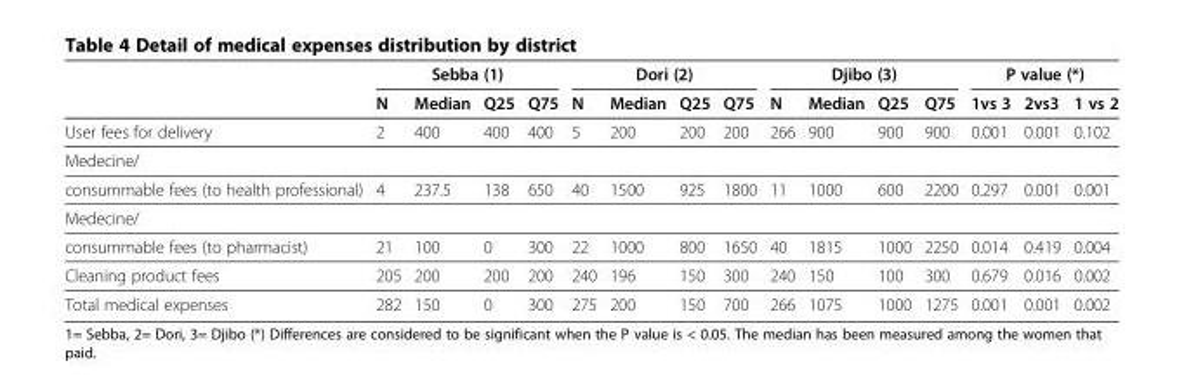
<table><thead><tr><td rowspan="2"></td><td colspan="4">Sebba (1)</td><td colspan="4">Dori (2)</td><td colspan="4">Djibo (3)</td><td colspan="3">P value (*)</td></tr><tr><td>N</td><td>Median</td><td>Q25</td><td>Q75</td><td>N</td><td>Median</td><td>Q25</td><td>Q75</td><td>N</td><td>Median</td><td>Q25</td><td>Q75</td><td>1vs 3</td><td>2vs3</td><td>1 vs 2</td></tr></thead><tbody><tr><td>User fees for delivery</td><td>2</td><td>400</td><td>400</td><td>400</td><td>5</td><td>200</td><td>200</td><td>200</td><td>266</td><td>900</td><td>900</td><td>900</td><td>0.001</td><td>0.001</td><td>0.102</td></tr><tr><td colspan="16">Medecine/</td></tr><tr><td>consummable fees (to health professional)</td><td>4</td><td>237.5</td><td>138</td><td>650</td><td>40</td><td>1500</td><td>925</td><td>1800</td><td>11</td><td>1000</td><td>600</td><td>2200</td><td>0.297</td><td>0.001</td><td>0.001</td></tr><tr><td colspan="16">Medecine/</td></tr><tr><td>consummable fees (to pharmacist)</td><td>21</td><td>100</td><td>0</td><td>300</td><td>22</td><td>1000</td><td>800</td><td>1650</td><td>40</td><td>1815</td><td>1000</td><td>2250</td><td>0.014</td><td>0.419</td><td>0.004</td></tr><tr><td>Cleaning product fees</td><td>205</td><td>200</td><td>200</td><td>200</td><td>240</td><td>196</td><td>150</td><td>300</td><td>240</td><td>150</td><td>100</td><td>300</td><td>0.679</td><td>0.016</td><td>0.002</td></tr><tr><td>Total medical expenses</td><td>282</td><td>150</td><td>0</td><td>300</td><td>275</td><td>200</td><td>150</td><td>700</td><td>266</td><td>1075</td><td>1000</td><td>1275</td><td>0.001</td><td>0.001</td><td>0.002</td></tr></tbody></table>